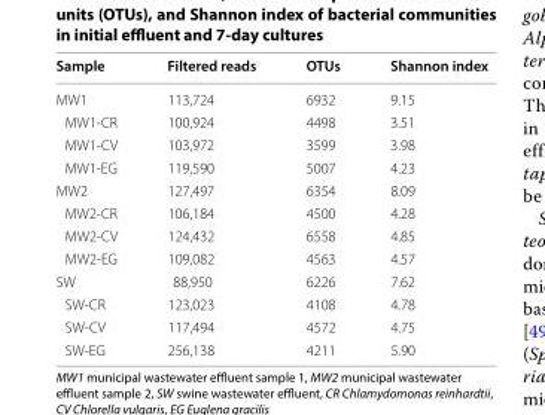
<table><thead><tr><td>Sample</td><td>Filtered reads</td><td>OTUs</td><td>Shannon index</td></tr></thead><tbody><tr><td>MW1</td><td>113,724</td><td>6932</td><td>9.15</td></tr><tr><td>MW1-CR</td><td>100,924</td><td>4498</td><td>3.51</td></tr><tr><td>MW1-CV</td><td>103,972</td><td>3599</td><td>3.98</td></tr><tr><td>MW1-EG</td><td>119,590</td><td>5007</td><td>4.23</td></tr><tr><td>MW2</td><td>127,497</td><td>6354</td><td>8.09</td></tr><tr><td>MW2-CR</td><td>106,184</td><td>4500</td><td>4.28</td></tr><tr><td>MW2-CV</td><td>124,432</td><td>6558</td><td>4.85</td></tr><tr><td>MW2-EG</td><td>109,082</td><td>4563</td><td>4.57</td></tr><tr><td>SW</td><td>88,950</td><td>6226</td><td>7.62</td></tr><tr><td>SW-CR</td><td>123,023</td><td>4108</td><td>4.78</td></tr><tr><td>SW-CV</td><td>117,494</td><td>4572</td><td>4.75</td></tr><tr><td>SW-EG</td><td>256,138</td><td>4211</td><td>5.90</td></tr></tbody></table>